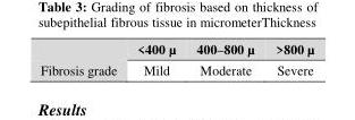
<table><thead><tr><td></td><td>&lt;400 µ</td><td>400–800 µ</td><td>&gt;800 µ</td></tr></thead><tbody><tr><td>Fibrosis grade</td><td>Mild</td><td>Moderate</td><td>Severe</td></tr></tbody></table>